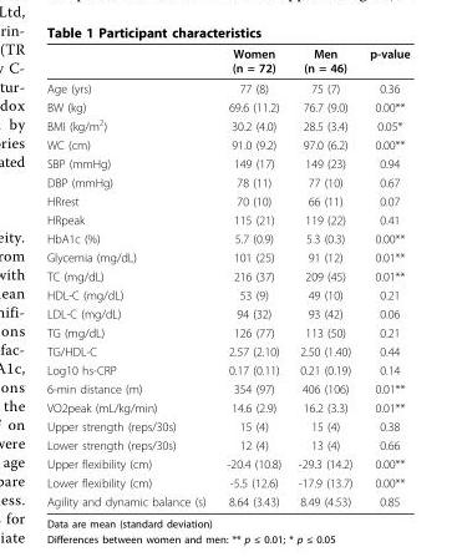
<table><thead><tr><td></td><td>Women (n = 72)</td><td>Men (n = 46)</td><td>p-value</td></tr></thead><tbody><tr><td>Age (yrs)</td><td>77 (8)</td><td>75 (7)</td><td>0.36</td></tr><tr><td>BW (kg)</td><td>69.6 (11.2)</td><td>76.7 (9.0)</td><td>0.00**</td></tr><tr><td>BMI (kg/m<sup>2</sup>)</td><td>30.2 (4.0)</td><td>28.5 (3.4)</td><td>0.05*</td></tr><tr><td>WC (cm)</td><td>91.0 (9.2)</td><td>97.0 (6.2)</td><td>0.00**</td></tr><tr><td>SBP (mmHg)</td><td>149 (17)</td><td>149 (23)</td><td>0.94</td></tr><tr><td>DBP (mmHg)</td><td>78 (11)</td><td>77 (10)</td><td>0.67</td></tr><tr><td>HRrest</td><td>70 (10)</td><td>66 (11)</td><td>0.07</td></tr><tr><td>HRpeak</td><td>115 (21)</td><td>119 (22)</td><td>0.41</td></tr><tr><td>HbA1c (%)</td><td>5.7 (0.9)</td><td>5.3 (0.3)</td><td>0.00**</td></tr><tr><td>Glycemia (mg/dL)</td><td>101 (25)</td><td>91 (12)</td><td>0.01**</td></tr><tr><td>TC (mg/dL)</td><td>216 (37)</td><td>209 (45)</td><td>0.01**</td></tr><tr><td>HDL-C (mg/dL)</td><td>53 (9)</td><td>49 (10)</td><td>0.21</td></tr><tr><td>LDL-C (mg/dL)</td><td>94 (32)</td><td>93 (42)</td><td>0.06</td></tr><tr><td>TG (mg/dL)</td><td>126 (77)</td><td>113 (50)</td><td>0.21</td></tr><tr><td>TG/HDL-C</td><td>2.57 (2.10)</td><td>2.50 (1.40)</td><td>0.44</td></tr><tr><td>Log10 hs-CRP</td><td>0.17 (0.11)</td><td>0.21 (0.19)</td><td>0.14</td></tr><tr><td>6-min distance (m)</td><td>354 (97)</td><td>406 (106)</td><td>0.01**</td></tr><tr><td>VO2peak (mL/kg/min)</td><td>14.6 (2.9)</td><td>16.2 (3.3)</td><td>0.01**</td></tr><tr><td>Upper strength (reps/30s)</td><td>15 (4)</td><td>15 (4)</td><td>0.38</td></tr><tr><td>Lower strength (reps/30s)</td><td>12 (4)</td><td>13 (4)</td><td>0.66</td></tr><tr><td>Upper flexibility (cm)</td><td>-20.4 (10.8)</td><td>-29.3 (14.2)</td><td>0.00**</td></tr><tr><td>Lower flexibility (cm)</td><td>-5.5 (12.6)</td><td>-17.9 (13.7)</td><td>0.00**</td></tr><tr><td>Agility and dynamic balance (s)</td><td>8.64 (3.43)</td><td>8.49 (4.53)</td><td>0.85</td></tr></tbody></table>